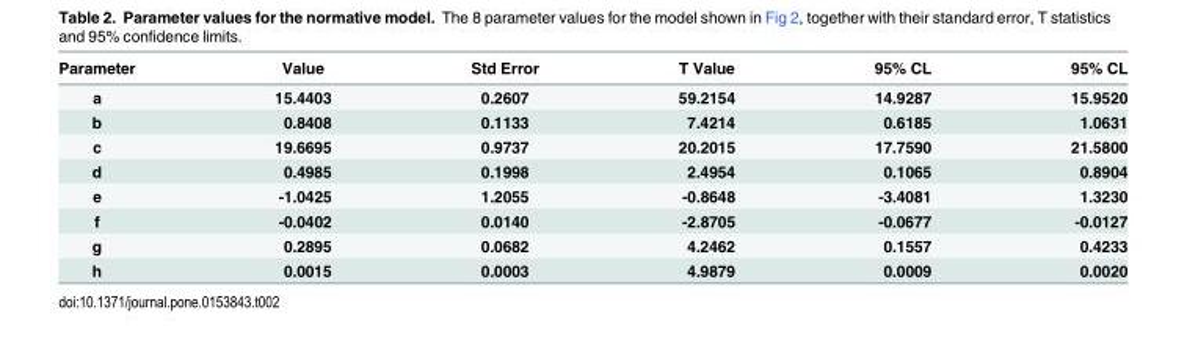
<table><thead><tr><td>Parameter</td><td>Value</td><td>Std Error</td><td>T Value</td><td>95% CL</td><td>95% CL</td></tr></thead><tbody><tr><td>a</td><td>15.4403</td><td>0.2607</td><td>59.2154</td><td>14.9287</td><td>15.9520</td></tr><tr><td>b</td><td>0.8408</td><td>0.1133</td><td>7.4214</td><td>0.6185</td><td>1.0631</td></tr><tr><td>c</td><td>19.6695</td><td>0.9737</td><td>20.2015</td><td>17.7590</td><td>21.5800</td></tr><tr><td>d</td><td>0.4985</td><td>0.1998</td><td>2.4954</td><td>0.1065</td><td>0.8904</td></tr><tr><td>e</td><td>-1.0425</td><td>1.2055</td><td>-0.8648</td><td>-3.4081</td><td>1.3230</td></tr><tr><td>f</td><td>-0.0402</td><td>0.0140</td><td>-2.8705</td><td>-0.0677</td><td>-0.0127</td></tr><tr><td>g</td><td>0.2895</td><td>0.0682</td><td>4.2462</td><td>0.1557</td><td>0.4233</td></tr><tr><td>h</td><td>0.0015</td><td>0.0003</td><td>4.9879</td><td>0.0009</td><td>0.0020</td></tr></tbody></table>